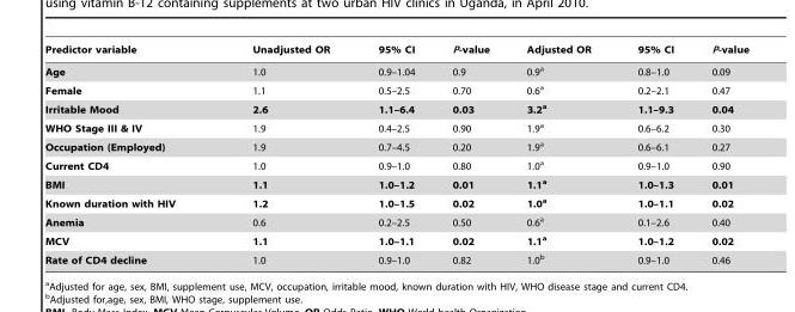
<table><thead><tr><td>Predictor variable</td><td>Unadjusted OR</td><td>95% CI</td><td>P-value</td><td>Adjusted OR</td><td>95% CI</td><td>P-value</td></tr></thead><tbody><tr><td>Age</td><td>1.0</td><td>0.9–1.04</td><td>0.9</td><td>0.9<sup>a</sup></td><td>0.8–1.0</td><td>0.09</td></tr><tr><td>Female</td><td>1.1</td><td>0.5–2.5</td><td>0.70</td><td>0.6<sup>a</sup></td><td>0.2–2.1</td><td>0.47</td></tr><tr><td>Irritable Mood</td><td>2.6</td><td>1.1–6.4</td><td>0.03</td><td>3.2a</td><td>1.1–9.3</td><td>0.04</td></tr><tr><td>WHO Stage III &amp; IV</td><td>1.9</td><td>0.4–2.5</td><td>0.90</td><td>1.9<sup>a</sup></td><td>0.6–6.2</td><td>0.30</td></tr><tr><td>Occupation (Employed)</td><td>1.9</td><td>0.7–4.5</td><td>0.20</td><td>1.9<sup>a</sup></td><td>0.6–6.1</td><td>0.27</td></tr><tr><td>Current CD4</td><td>1.0</td><td>0.9–1.0</td><td>0.80</td><td>1.0<sup>a</sup></td><td>0.9–1.0</td><td>0.90</td></tr><tr><td>BMI</td><td>1.1</td><td>1.0–1.2</td><td>0.01</td><td>1.1a</td><td>1.0–1.3</td><td>0.01</td></tr><tr><td>Known duration with HIV</td><td>1.2</td><td>1.0–1.5</td><td>0.02</td><td>1.0a</td><td>1.0–1.1</td><td>0.02</td></tr><tr><td>Anemia</td><td>0.6</td><td>0.2–2.5</td><td>0.50</td><td>0.6<sup>a</sup></td><td>0.1–2.6</td><td>0.40</td></tr><tr><td>MCV</td><td>1.1</td><td>1.0–1.1</td><td>0.02</td><td>1.1a</td><td>1.0–1.2</td><td>0.02</td></tr><tr><td>Rate of CD4 decline</td><td>1.0</td><td>0.9–1.0</td><td>0.82</td><td>1.0<sup>b</sup></td><td>0.9–1.0</td><td>0.46</td></tr></tbody></table>